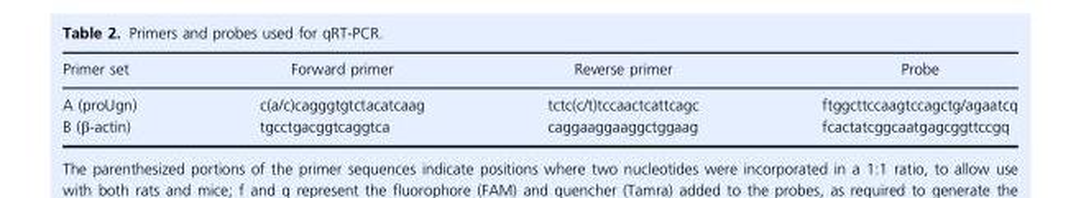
<table><thead><tr><td>Primer set</td><td>Forward primer</td><td>Reverse primer</td><td>Probe</td></tr></thead><tbody><tr><td>A (proUgn)</td><td>c(a/c)cagggtgtctacatcaag</td><td>tctc(c/t)tccaactcattcagc</td><td>ftggcttccaagtccagctg/agaatcq</td></tr><tr><td>B (β-actin)</td><td>tgcctgacggtcaggtca</td><td>caggaaggaaggctggaag</td><td>fcactatcggcaatgagcggttccgq</td></tr></tbody></table>